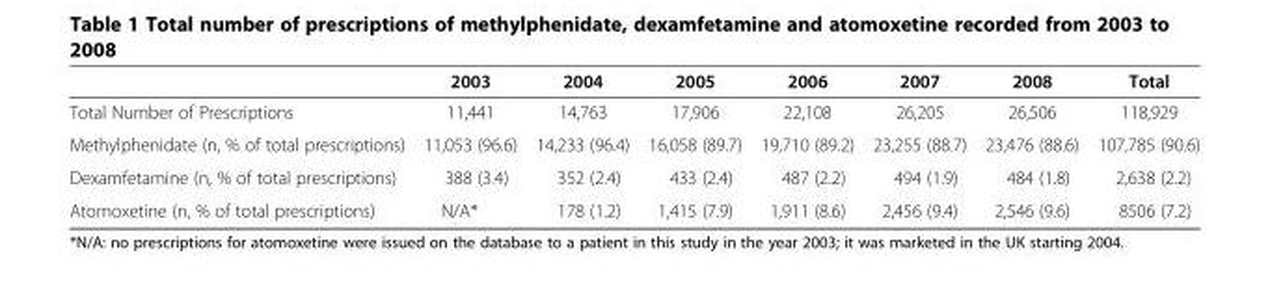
<table><thead><tr><td></td><td>2003</td><td>2004</td><td>2005</td><td>2006</td><td>2007</td><td>2008</td><td>Total</td></tr></thead><tbody><tr><td>Total Number of Prescriptions</td><td>11,441</td><td>14,763</td><td>17,906</td><td>22,108</td><td>26,205</td><td>26,506</td><td>118,929</td></tr><tr><td>Methylphenidate (n, % of total prescriptions)</td><td>11,053 (96.6)</td><td>14,233 (96.4)</td><td>16,058 (89.7)</td><td>19,710 (89.2)</td><td>23,255 (88.7)</td><td>23,476 (88.6)</td><td>107,785 (90.6)</td></tr><tr><td>Dexamfetamine (n, % of total prescriptions)</td><td>388 (3.4)</td><td>352 (2.4)</td><td>433 (2.4)</td><td>487 (2.2)</td><td>494 (1.9)</td><td>484 (1.8)</td><td>2,638 (2.2)</td></tr><tr><td>Atomoxetine (n, % of total prescriptions)</td><td>N/A*</td><td>178 (1.2)</td><td>1,415 (7.9)</td><td>1,911 (8.6)</td><td>2,456 (9.4)</td><td>2,546 (9.6)</td><td>8506 (7.2)</td></tr></tbody></table>